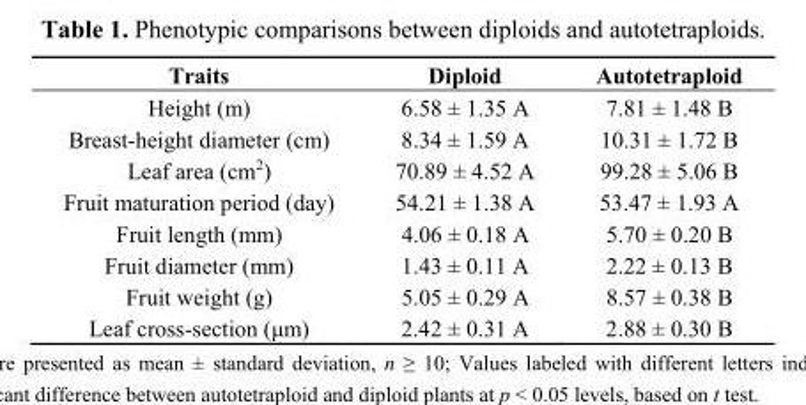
<table><thead><tr><td>Traits</td><td>Diploid</td><td>Autotetraploid</td></tr></thead><tbody><tr><td>Height (m)</td><td>6.58 ± 1.35 A</td><td>7.81 ± 1.48 B</td></tr><tr><td>Breast-height diameter (cm)</td><td>8.34 ± 1.59 A</td><td>10.31 ± 1.72 B</td></tr><tr><td>Leaf area (cm<sup>2</sup>)</td><td>70.89 ± 4.52 A</td><td>99.28 ± 5.06 B</td></tr><tr><td>Fruit maturation period (day)</td><td>54.21 ± 1.38 A</td><td>53.47 ± 1.93 A</td></tr><tr><td>Fruit length (mm)</td><td>4.06 ± 0.18 A</td><td>5.70 ± 0.20 B</td></tr><tr><td>Fruit diameter (mm)</td><td>1.43 ± 0.11 A</td><td>2.22 ± 0.13 B</td></tr><tr><td>Fruit weight (g)</td><td>5.05 ± 0.29 A</td><td>8.57 ± 0.38 B</td></tr><tr><td>Leaf cross-section (μm)</td><td>2.42 ± 0.31 A</td><td>2.88 ± 0.30 B</td></tr></tbody></table>